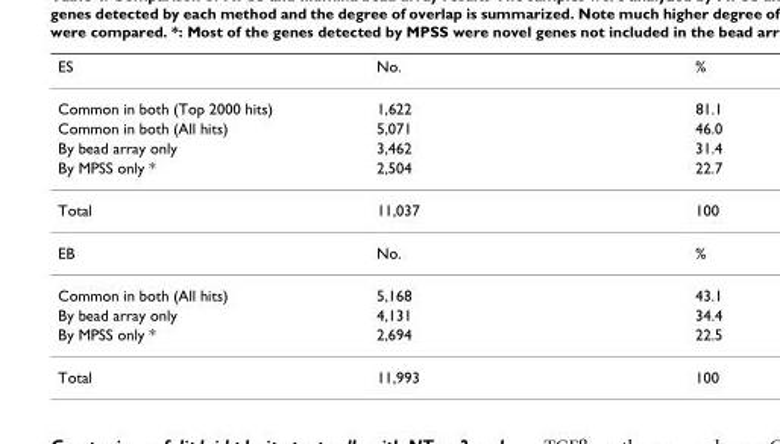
<table><thead><tr><td>ES</td><td>No.</td><td>%</td></tr></thead><tbody><tr><td>Common in both (Top 2000 hits)</td><td>1,622</td><td>81.1</td></tr><tr><td>Common in both (All hits)</td><td>5,071</td><td>46.0</td></tr><tr><td>By bead array only</td><td>3,462</td><td>31.4</td></tr><tr><td>By MPSS only *</td><td>2,504</td><td>22.7</td></tr><tr><td>Total</td><td>11,037</td><td>100</td></tr><tr><td>EB</td><td>No.</td><td>%</td></tr><tr><td>Common in both (All hits)</td><td>5,168</td><td>43.1</td></tr><tr><td>By bead array only</td><td>4,131</td><td>34.4</td></tr><tr><td>By MPSS only *</td><td>2,694</td><td>22.5</td></tr><tr><td>Total</td><td>11,993</td><td>100</td></tr></tbody></table>